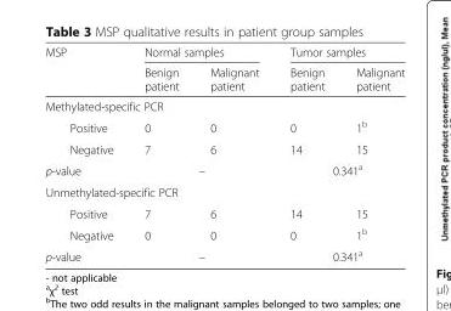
<table><thead><tr><td rowspan="2">MSP</td><td colspan="2">Normal samples</td><td colspan="2">Tumor samples</td></tr><tr><td>Benign patient</td><td>Malignant patient</td><td>Benign patient</td><td>Malignant patient</td></tr></thead><tbody><tr><td colspan="5">Methylated-specific PCR</td></tr><tr><td>Positive</td><td>0</td><td>0</td><td>0</td><td>1<sup>b</sup></td></tr><tr><td>Negative</td><td>7</td><td>6</td><td>14</td><td>15</td></tr><tr><td>p-value</td><td colspan="2">–</td><td colspan="2">0.341<sup>a</sup></td></tr><tr><td colspan="5">Unmethylated-specific PCR</td></tr><tr><td>Positive</td><td>7</td><td>6</td><td>14</td><td>15</td></tr><tr><td>Negative</td><td>0</td><td>0</td><td>0</td><td>1<sup>b</sup></td></tr><tr><td>p-value</td><td colspan="2">–</td><td colspan="2">0.341<sup>a</sup></td></tr></tbody></table>